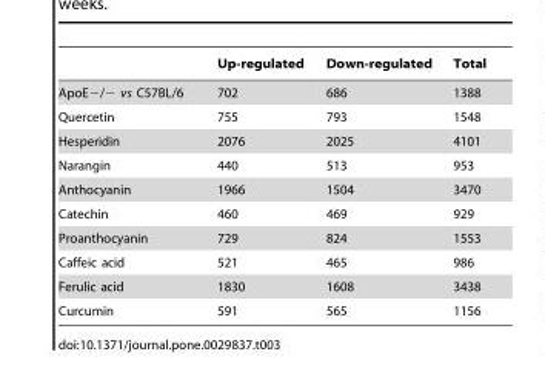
<table><thead><tr><td></td><td>Up-regulated</td><td>Down-regulated</td><td>Total</td></tr></thead><tbody><tr><td>ApoE−/− vs C57BL/6</td><td>702</td><td>686</td><td>1388</td></tr><tr><td>Quercetin</td><td>755</td><td>793</td><td>1548</td></tr><tr><td>Hesperidin</td><td>2076</td><td>2025</td><td>4101</td></tr><tr><td>Narangin</td><td>440</td><td>513</td><td>953</td></tr><tr><td>Anthocyanin</td><td>1966</td><td>1504</td><td>3470</td></tr><tr><td>Catechin</td><td>460</td><td>469</td><td>929</td></tr><tr><td>Proanthocyanin</td><td>729</td><td>824</td><td>1553</td></tr><tr><td>Caffeic acid</td><td>521</td><td>465</td><td>986</td></tr><tr><td>Ferulic acid</td><td>1830</td><td>1608</td><td>3438</td></tr><tr><td>Curcumin</td><td>591</td><td>565</td><td>1156</td></tr></tbody></table>